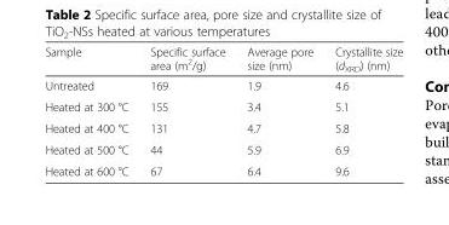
<table><thead><tr><td>Sample</td><td>Specific surface area (m<sup>2</sup>/g)</td><td>Average pore size (nm)</td><td>Crystallite size (d<sub>XRD</sub>) (nm)</td></tr></thead><tbody><tr><td>Untreated</td><td>169</td><td>1.9</td><td>4.6</td></tr><tr><td>Heated at 300 °C</td><td>155</td><td>3.4</td><td>5.1</td></tr><tr><td>Heated at 400 °C</td><td>131</td><td>4.7</td><td>5.8</td></tr><tr><td>Heated at 500 °C</td><td>44</td><td>5.9</td><td>6.9</td></tr><tr><td>Heated at 600 °C</td><td>67</td><td>6.4</td><td>9.6</td></tr></tbody></table>